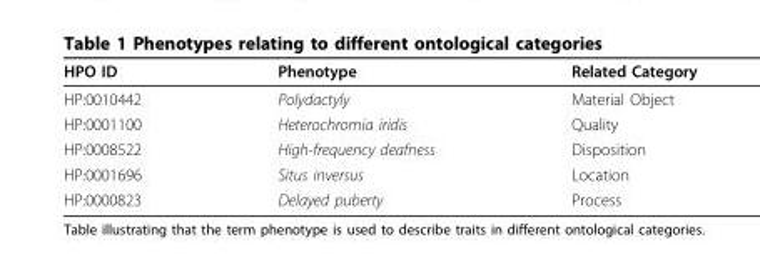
<table><thead><tr><td>HPO ID</td><td>Phenotype</td><td>Related Category</td></tr></thead><tbody><tr><td>HP:0010442</td><td>Polydactyly</td><td>Material Object</td></tr><tr><td>HP:0001100</td><td>Heterochromia iridis</td><td>Quality</td></tr><tr><td>HP:0008522</td><td>High-frequency deafness</td><td>Disposition</td></tr><tr><td>HP:0001696</td><td>Situs inversus</td><td>Location</td></tr><tr><td>HP:0000823</td><td>Delayed puberty</td><td>Process</td></tr></tbody></table>